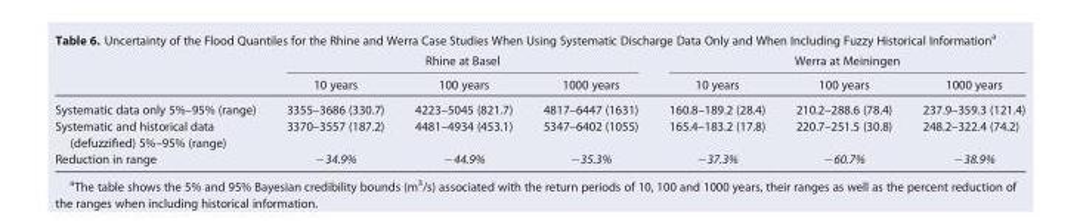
<table><thead><tr><td rowspan="2"></td><td colspan="3">Rhine at Basel</td><td colspan="3">Werra at Meiningen</td></tr><tr><td>10 years</td><td>100 years</td><td>1000 years</td><td>10 years</td><td>100 years</td><td>1000 years</td></tr></thead><tbody><tr><td>Systematic data only 5%–95% (range)</td><td>3355–3686 (330.7)</td><td>4223–5045 (821.7)</td><td>4817–6447 (1631)</td><td>160.8–189.2 (28.4)</td><td>210.2–288.6 (78.4)</td><td>237.9–359.3 (121.4)</td></tr><tr><td>Systematic and historical data (defuzzified) 5%–95% (range)</td><td>3370–3557 (187.2)</td><td>4481–4934 (453.1)</td><td>5347–6402 (1055)</td><td>165.4–183.2 (17.8)</td><td>220.7–251.5 (30.8)</td><td>248.2–322.4 (74.2)</td></tr><tr><td>Reduction in range</td><td>−34.9%</td><td>−44.9%</td><td>−35.3%</td><td>−37.3%</td><td>−60.7%</td><td>−38.9%</td></tr></tbody></table>